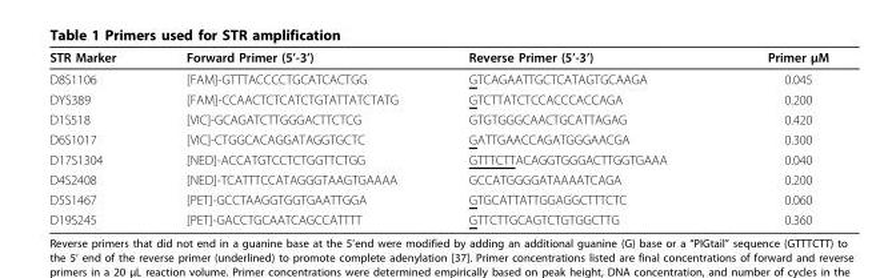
<table><thead><tr><td>STR Marker</td><td>Forward Primer (5’-3’)</td><td>Reverse Primer (5’-3’)</td><td>Primer μM</td></tr></thead><tbody><tr><td>D8S1106</td><td>[FAM]-GTTTACCCCTGCATCACTGG</td><td>GTCAGAATTGCTCATAGTGCAAGA</td><td>0.045</td></tr><tr><td>DYS389</td><td>[FAM]-CCAACTCTCATCTGTATTATCTATG</td><td>GTCTTATCTCCACCCACCAGA</td><td>0.200</td></tr><tr><td>D1S518</td><td>[VIC]-GCAGATCTTGGGACTTCTCG</td><td>GTGTGGGCAACTGCATTAGAG</td><td>0.420</td></tr><tr><td>D6S1017</td><td>[VIC]-CTGGCACAGGATAGGTGCTC</td><td>GATTGAACCAGATGGGAACGA</td><td>0.300</td></tr><tr><td>D17S1304</td><td>[NED]-ACCATGTCCTCTGGTTCTGG</td><td>GTTTCTTACAGGTGGGACTTGGTGAAA</td><td>0.040</td></tr><tr><td>D4S2408</td><td>[NED]-TCATTTCCATAGGGTAAGTGAAAA</td><td>GCCATGGGGATAAAATCAGA</td><td>0.200</td></tr><tr><td>D5S1467</td><td>[PET]-GCCTAAGGTGGTGAATTGGA</td><td>GTGCATTATTGGAGGCTTTCTC</td><td>0.060</td></tr><tr><td>D19S245</td><td>[PET]-GACCTGCAATCAGCCATTTT</td><td>GTTCTTGCAGTCTGTGGCTTG</td><td>0.360</td></tr></tbody></table>